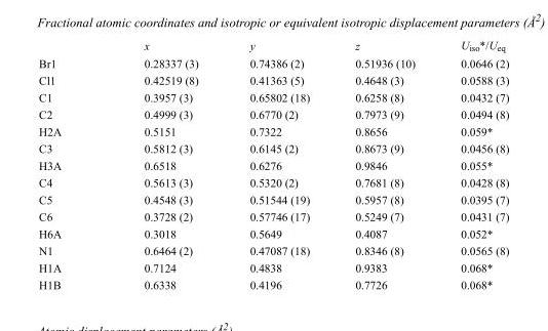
<table><thead><tr><td></td><td>x</td><td>y</td><td>z</td><td>U<sub>iso</sub>*/U<sub>eq</sub></td></tr></thead><tbody><tr><td>Br1</td><td>0.28337 (3)</td><td>0.74386 (2)</td><td>0.51936 (10)</td><td>0.0646 (2)</td></tr><tr><td>Cl1</td><td>0.42519 (8)</td><td>0.41363 (5)</td><td>0.4648 (3)</td><td>0.0588 (3)</td></tr><tr><td>C1</td><td>0.3957 (3)</td><td>0.65802 (18)</td><td>0.6258 (8)</td><td>0.0432 (7)</td></tr><tr><td>C2</td><td>0.4999 (3)</td><td>0.6770 (2)</td><td>0.7973 (9)</td><td>0.0494 (8)</td></tr><tr><td>H2A</td><td>0.5151</td><td>0.7322</td><td>0.8656</td><td>0.059*</td></tr><tr><td>C3</td><td>0.5812 (3)</td><td>0.6145 (2)</td><td>0.8673 (9)</td><td>0.0456 (8)</td></tr><tr><td>H3A</td><td>0.6518</td><td>0.6276</td><td>0.9846</td><td>0.055*</td></tr><tr><td>C4</td><td>0.5613 (3)</td><td>0.5320 (2)</td><td>0.7681 (8)</td><td>0.0428 (8)</td></tr><tr><td>C5</td><td>0.4548 (3)</td><td>0.51544 (19)</td><td>0.5957 (8)</td><td>0.0395 (7)</td></tr><tr><td>C6</td><td>0.3728 (2)</td><td>0.57746 (17)</td><td>0.5249 (7)</td><td>0.0431 (7)</td></tr><tr><td>H6A</td><td>0.3018</td><td>0.5649</td><td>0.4087</td><td>0.052*</td></tr><tr><td>N1</td><td>0.6464 (2)</td><td>0.47087 (18)</td><td>0.8346 (8)</td><td>0.0565 (8)</td></tr><tr><td>H1A</td><td>0.7124</td><td>0.4838</td><td>0.9383</td><td>0.068*</td></tr><tr><td>H1B</td><td>0.6338</td><td>0.4196</td><td>0.7726</td><td>0.068*</td></tr></tbody></table>